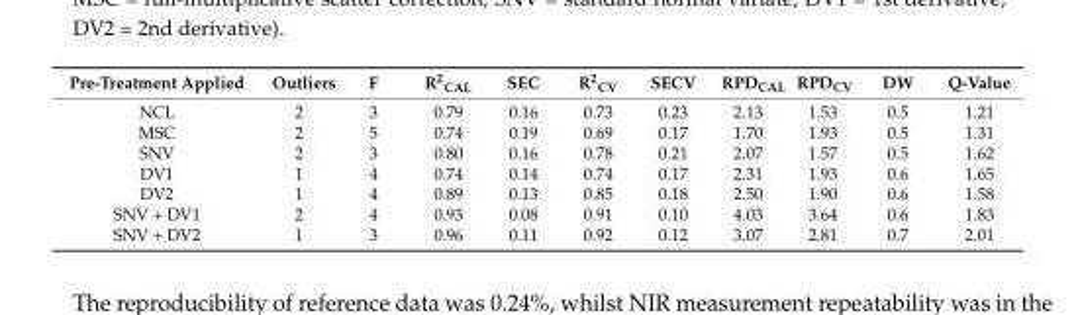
<table><thead><tr><td>Pre-Treatment Applied</td><td>Outliers</td><td>F</td><td>R<sup>2</sup><sub>CAL</sub></td><td>SEC</td><td>R<sup>2</sup><sub>CV</sub></td><td>SECV</td><td>RPD<sub>CAL</sub></td><td>RPD<sub>CV</sub></td><td>DW</td><td>Q-Value</td></tr></thead><tbody><tr><td>NCL</td><td>2</td><td>3</td><td>0.79</td><td>0.16</td><td>0.73</td><td>0.23</td><td>2.13</td><td>1.53</td><td>0.5</td><td>1.21</td></tr><tr><td>MSC</td><td>2</td><td>5</td><td>0.74</td><td>0.19</td><td>0.69</td><td>0.17</td><td>1.70</td><td>1.93</td><td>0.5</td><td>1.31</td></tr><tr><td>SNV</td><td>2</td><td>3</td><td>0.80</td><td>0.16</td><td>0.78</td><td>0.21</td><td>2.07</td><td>1.57</td><td>0.5</td><td>1.62</td></tr><tr><td>DV1</td><td>1</td><td>4</td><td>0.74</td><td>0.14</td><td>0.74</td><td>0.17</td><td>2.31</td><td>1.93</td><td>0.6</td><td>1.65</td></tr><tr><td>DV2</td><td>1</td><td>4</td><td>0.89</td><td>0.13</td><td>0.85</td><td>0.18</td><td>2.50</td><td>1.90</td><td>0.6</td><td>1.58</td></tr><tr><td>SNV + DV1</td><td>2</td><td>4</td><td>0.93</td><td>0.08</td><td>0.91</td><td>0.10</td><td>4.03</td><td>3.64</td><td>0.6</td><td>1.83</td></tr><tr><td>SNV + DV2</td><td>1</td><td>3</td><td>0.96</td><td>0.11</td><td>0.92</td><td>0.12</td><td>3.07</td><td>2.81</td><td>0.7</td><td>2.01</td></tr></tbody></table>